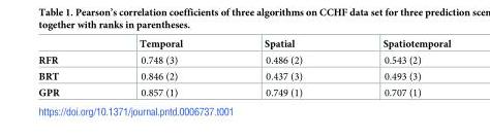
<table><thead><tr><td></td><td>Temporal</td><td>Spatial</td><td>Spatiotemporal</td></tr></thead><tbody><tr><td>RFR</td><td>0.748 (3)</td><td>0.486 (2)</td><td>0.543 (2)</td></tr><tr><td>BRT</td><td>0.846 (2)</td><td>0.437 (3)</td><td>0.493 (3)</td></tr><tr><td>GPR</td><td>0.857 (1)</td><td>0.749 (1)</td><td>0.707 (1)</td></tr></tbody></table>